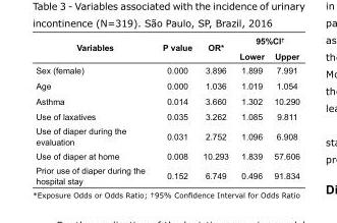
<table><tbody><tr><td rowspan="2">Variables</td><td rowspan="2">P value</td><td rowspan="2">OR*</td><td colspan="2">95%CI<sup>†</sup></td></tr><tr><td>Lower</td><td>Upper</td></tr><tr><td>Sex (female)</td><td>0.000</td><td>3.896</td><td>1.899</td><td>7.991</td></tr><tr><td>Age</td><td>0.000</td><td>1.036</td><td>1.019</td><td>1.054</td></tr><tr><td>Asthma</td><td>0.014</td><td>3.660</td><td>1.302</td><td>10.290</td></tr><tr><td>Use of laxatives</td><td>0.035</td><td>3.262</td><td>1.085</td><td>9.811</td></tr><tr><td>Use of diaper during the evaluation</td><td>0.031</td><td>2.752</td><td>1.096</td><td>6.908</td></tr><tr><td>Use of diaper at home</td><td>0.008</td><td>10.293</td><td>1.839</td><td>57.606</td></tr><tr><td>Prior use of diaper during the hospital stay</td><td>0.152</td><td>6.749</td><td>0.496</td><td>91.834</td></tr></tbody></table>